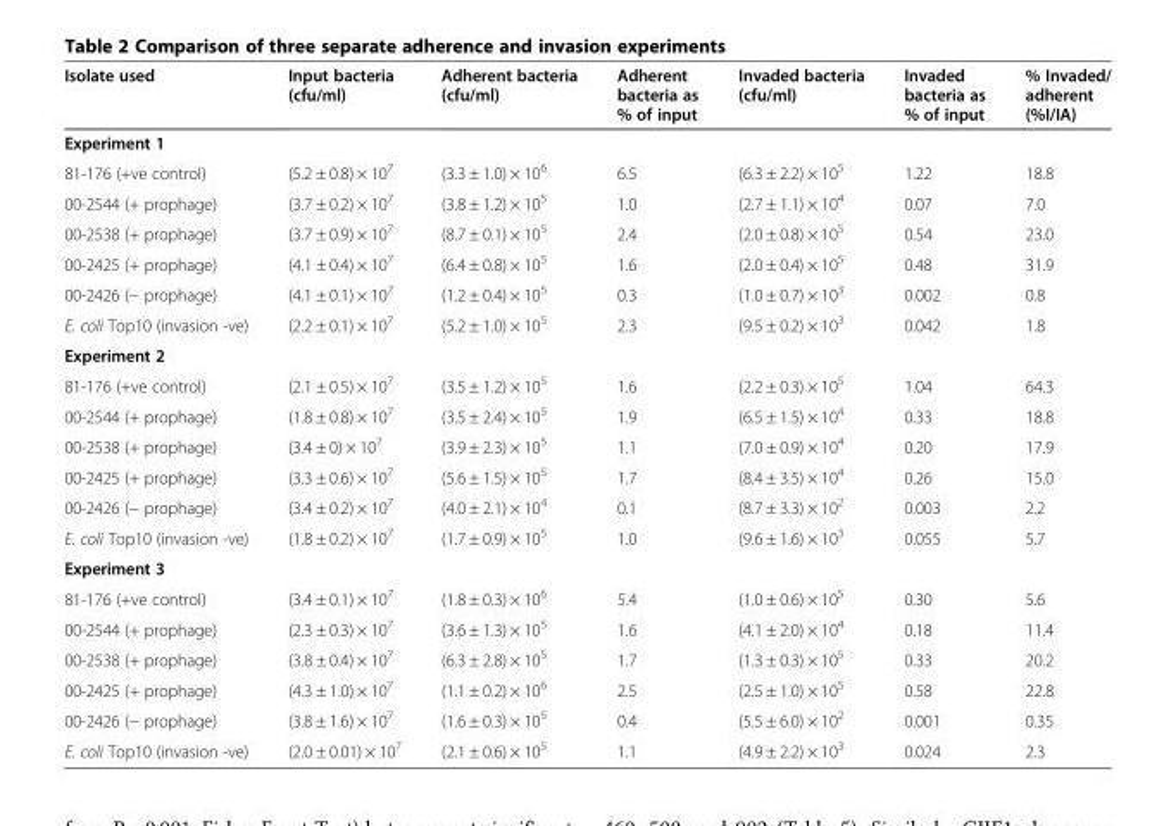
<table><thead><tr><td>Isolate used</td><td>Input bacteria (cfu/ml)</td><td>Adherent bacteria (cfu/ml)</td><td>Adherent bacteria as % of input</td><td>Invaded bacteria (cfu/ml)</td><td>Invaded bacteria as % of input</td><td>% Invaded/ adherent (%I/IA)</td></tr></thead><tbody><tr><td colspan="7">Experiment 1</td></tr><tr><td>81-176 (+ve control)</td><td>(5.2 ± 0.8) × 10<sup>7</sup></td><td>(3.3 ± 1.0) × 10<sup>6</sup></td><td>6.5</td><td>(6.3 ± 2.2) × 10<sup>5</sup></td><td>1.22</td><td>18.8</td></tr><tr><td>00-2544 (+ prophage)</td><td>(3.7 ± 0.2) × 10<sup>7</sup></td><td>(3.8 ± 1.2) × 10<sup>5</sup></td><td>1.0</td><td>(2.7 ± 1.1) × 10<sup>4</sup></td><td>0.07</td><td>7.0</td></tr><tr><td>00-2538 (+ prophage)</td><td>(3.7 ± 0.9) × 10<sup>7</sup></td><td>(8.7 ± 0.1) × 10<sup>5</sup></td><td>2.4</td><td>(2.0 ± 0.8) × 10<sup>5</sup></td><td>0.54</td><td>23.0</td></tr><tr><td>00-2425 (+ prophage)</td><td>(4.1 ± 0.4) × 10<sup>7</sup></td><td>(6.4 ± 0.8) × 10<sup>5</sup></td><td>1.6</td><td>(2.0 ± 0.4) × 10<sup>5</sup></td><td>0.48</td><td>31.9</td></tr><tr><td>00-2426 (− prophage)</td><td>(4.1 ± 0.1) × 10<sup>7</sup></td><td>(1.2 ± 0.4) × 10<sup>5</sup></td><td>0.3</td><td>(1.0 ± 0.7) × 10<sup>3</sup></td><td>0.002</td><td>0.8</td></tr><tr><td>E. coli Top10 (invasion -ve)</td><td>(2.2 ± 0.1) × 10<sup>7</sup></td><td>(5.2 ± 1.0) × 10<sup>5</sup></td><td>2.3</td><td>(9.5 ± 0.2) × 10<sup>3</sup></td><td>0.042</td><td>1.8</td></tr><tr><td colspan="7">Experiment 2</td></tr><tr><td>81-176 (+ve control)</td><td>(2.1 ± 0.5) × 10<sup>7</sup></td><td>(3.5 ± 1.2) × 10<sup>5</sup></td><td>1.6</td><td>(2.2 ± 0.3) × 10<sup>5</sup></td><td>1.04</td><td>64.3</td></tr><tr><td>00-2544 (+ prophage)</td><td>(1.8 ± 0.8) × 10<sup>7</sup></td><td>(3.5 ± 2.4) × 10<sup>5</sup></td><td>1.9</td><td>(6.5 ± 1.5) × 10<sup>4</sup></td><td>0.33</td><td>18.8</td></tr><tr><td>00-2538 (+ prophage)</td><td>(3.4 ± 0) × 10<sup>7</sup></td><td>(3.9 ± 2.3) × 10<sup>5</sup></td><td>1.1</td><td>(7.0 ± 0.9) × 10<sup>4</sup></td><td>0.20</td><td>17.9</td></tr><tr><td>00-2425 (+ prophage)</td><td>(3.3 ± 0.6) × 10<sup>7</sup></td><td>(5.6 ± 1.5) × 10<sup>5</sup></td><td>1.7</td><td>(8.4 ± 3.5) × 10<sup>4</sup></td><td>0.26</td><td>15.0</td></tr><tr><td>00-2426 (− prophage)</td><td>(3.4 ± 0.2) × 10<sup>7</sup></td><td>(4.0 ± 2.1) × 10<sup>4</sup></td><td>0.1</td><td>(8.7 ± 3.3) × 10<sup>2</sup></td><td>0.003</td><td>2.2</td></tr><tr><td>E. coli Top10 (invasion -ve)</td><td>(1.8 ± 0.2) × 10<sup>7</sup></td><td>(1.7 ± 0.9) × 10<sup>5</sup></td><td>1.0</td><td>(9.6 ± 1.6) × 10<sup>3</sup></td><td>0.055</td><td>5.7</td></tr><tr><td colspan="7">Experiment 3</td></tr><tr><td>81-176 (+ve control)</td><td>(3.4 ± 0.1) × 10<sup>7</sup></td><td>(1.8 ± 0.3) × 10<sup>6</sup></td><td>5.4</td><td>(1.0 ± 0.6) × 10<sup>5</sup></td><td>0.30</td><td>5.6</td></tr><tr><td>00-2544 (+ prophage)</td><td>(2.3 ± 0.3) × 10<sup>7</sup></td><td>(3.6 ± 1.3) × 10<sup>5</sup></td><td>1.6</td><td>(4.1 ± 2.0) × 10<sup>4</sup></td><td>0.18</td><td>11.4</td></tr><tr><td>00-2538 (+ prophage)</td><td>(3.8 ± 0.4) × 10<sup>7</sup></td><td>(6.3 ± 2.8) × 10<sup>5</sup></td><td>1.7</td><td>(1.3 ± 0.3) × 10<sup>5</sup></td><td>0.33</td><td>20.2</td></tr><tr><td>00-2425 (+ prophage)</td><td>(4.3 ± 1.0) × 10<sup>7</sup></td><td>(1.1 ± 0.2) × 10<sup>6</sup></td><td>2.5</td><td>(2.5 ± 1.0) × 10<sup>5</sup></td><td>0.58</td><td>22.8</td></tr><tr><td>00-2426 (− prophage)</td><td>(3.8 ± 1.6) × 10<sup>7</sup></td><td>(1.6 ± 0.3) × 10<sup>5</sup></td><td>0.4</td><td>(5.5 ± 6.0) × 10<sup>2</sup></td><td>0.001</td><td>0.35</td></tr><tr><td>E. coli Top10 (invasion -ve)</td><td>(2.0 ± 0.01) × 10<sup>7</sup></td><td>(2.1 ± 0.6) × 10<sup>5</sup></td><td>1.1</td><td>(4.9 ± 2.2) × 10<sup>3</sup></td><td>0.024</td><td>2.3</td></tr></tbody></table>